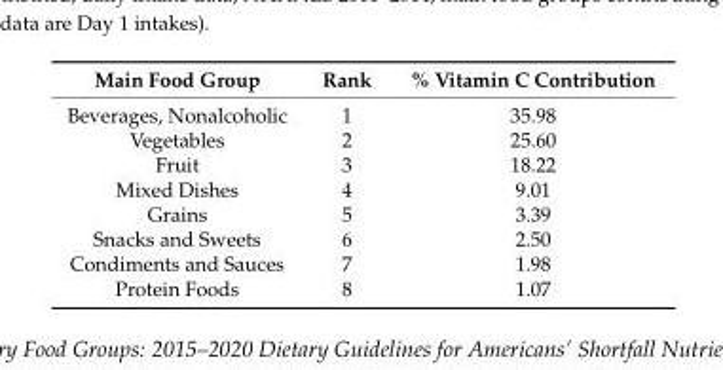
<table><thead><tr><td>Main Food Group</td><td>Rank</td><td>% Vitamin C Contribution</td></tr></thead><tbody><tr><td>Beverages, Nonalcoholic</td><td>1</td><td>35.98</td></tr><tr><td>Vegetables</td><td>2</td><td>25.60</td></tr><tr><td>Fruit</td><td>3</td><td>18.22</td></tr><tr><td>Mixed Dishes</td><td>4</td><td>9.01</td></tr><tr><td>Grains</td><td>5</td><td>3.39</td></tr><tr><td>Snacks and Sweets</td><td>6</td><td>2.50</td></tr><tr><td>Condiments and Sauces</td><td>7</td><td>1.98</td></tr><tr><td>Protein Foods</td><td>8</td><td>1.07</td></tr></tbody></table>